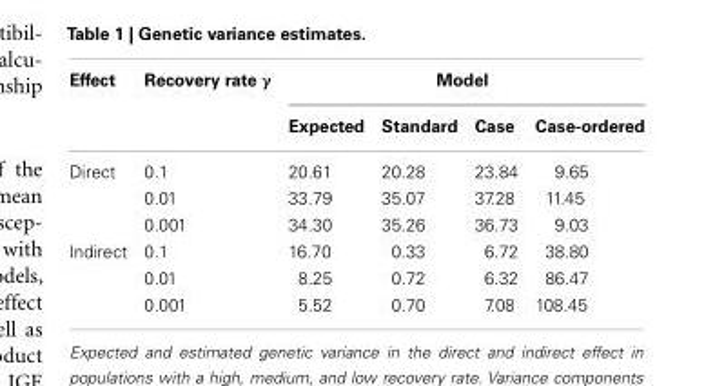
<table><thead><tr><td rowspan="2">Effect</td><td rowspan="2">Recovery rate γ</td><td colspan="4">Model</td></tr><tr><td>Expected</td><td>Standard</td><td>Case</td><td>Case-ordered</td></tr></thead><tbody><tr><td rowspan="3">Direct</td><td>0.1</td><td>20.61</td><td>20.28</td><td>23.84</td><td>9.65</td></tr><tr><td>0.01</td><td>33.79</td><td>35.07</td><td>37.28</td><td>11.45</td></tr><tr><td>0.001</td><td>34.30</td><td>35.26</td><td>36.73</td><td>9.03</td></tr><tr><td rowspan="3">Indirect</td><td>0.1</td><td>16.70</td><td>0.33</td><td>6.72</td><td>38.80</td></tr><tr><td>0.01</td><td>8.25</td><td>0.72</td><td>6.32</td><td>86.47</td></tr><tr><td>0.001</td><td>5.52</td><td>0.70</td><td>7.08</td><td>108.45</td></tr></tbody></table>